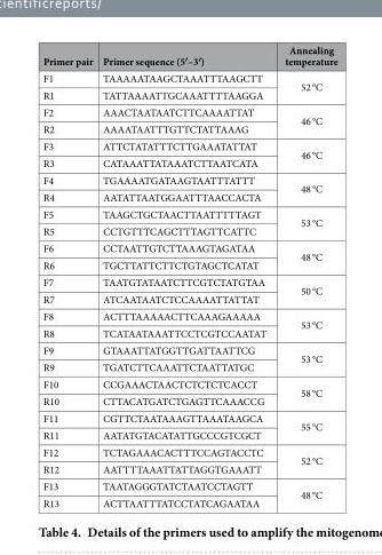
<table><thead><tr><td>Primer pair</td><td>Primer sequence (5′–3′)</td><td>Annealing temperature</td></tr></thead><tbody><tr><td>F1</td><td>TAAAAATAAGCTAAATTTAAGCTT</td><td rowspan="2">52 °C</td></tr><tr><td>R1</td><td>TATTAAAATTGCAAATTTTAAGGA</td></tr><tr><td>F2</td><td>AAACTAATAATCTTCAAAATTAT</td><td rowspan="2">46 °C</td></tr><tr><td>R2</td><td>AAAATAATTTGTTCTATTAAAG</td></tr><tr><td>F3</td><td>ATTCTATATTTCTTGAAATATTAT</td><td rowspan="2">46 °C</td></tr><tr><td>R3</td><td>CATAAATTATAAATCTTAATCATA</td></tr><tr><td>F4</td><td>TGAAAATGATAAGTAATTTATTT</td><td rowspan="2">48 °C</td></tr><tr><td>R4</td><td>AATATTAATGGAATTTAACCACTA</td></tr><tr><td>F5</td><td>TAAGCTGCTAACTTAATTTTTAGT</td><td rowspan="2">53 °C</td></tr><tr><td>R5</td><td>CCTGTTTCAGCTTTAGTTCATTC</td></tr><tr><td>F6</td><td>CCTAATTGTCTTAAAGTAGATAA</td><td rowspan="2">48 °C</td></tr><tr><td>R6</td><td>TGCTTATTCTTCTGTAGCTCATAT</td></tr><tr><td>F7</td><td>TAATGTATAATCTTCGTCTATGTAA</td><td rowspan="2">50 °C</td></tr><tr><td>R7</td><td>ATCAATAATCTCCAAAATTATTAT</td></tr><tr><td>F8</td><td>ACTTTAAAAACTTCAAAGAAAAA</td><td rowspan="2">53 °C</td></tr><tr><td>R8</td><td>TCATAATAAATTCCTCGTCCAATAT</td></tr><tr><td>F9</td><td>GTAAATTATGGTTGATTAATTCG</td><td rowspan="2">53 °C</td></tr><tr><td>R9</td><td>TGATCTTCAAATTCTAATTATGC</td></tr><tr><td>F10</td><td>CCGAAACTAACTCTCTCTCACCT</td><td rowspan="2">58 °C</td></tr><tr><td>R10</td><td>CTTACATGATCTGAGTTCAAACCG</td></tr><tr><td>F11</td><td>CGTTCTAATAAAGTTAAATAAGCA</td><td rowspan="2">55 °C</td></tr><tr><td>R11</td><td>AATATGTACATATTGCCCGTCGCT</td></tr><tr><td>F12</td><td>TCTAGAAACACTTTCCAGTACCTC</td><td rowspan="2">52 °C</td></tr><tr><td>R12</td><td>AATTTTAAATTATTAGGTGAAATT</td></tr><tr><td>F13</td><td>TAATAGGGTATCTAATCCTAGTT</td><td rowspan="2">48 °C</td></tr><tr><td>R13</td><td>ACTTAATTTATCCTATCAGAATAA</td></tr></tbody></table>